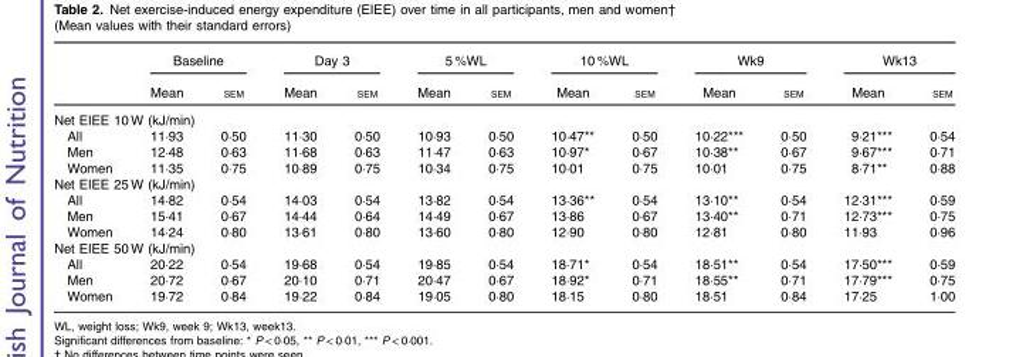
<table><thead><tr><td rowspan="2"></td><td colspan="2">Baseline</td><td colspan="2">Day 3</td><td colspan="2">5 %WL</td><td colspan="2">10 %WL</td><td colspan="2">Wk9</td><td colspan="2">Wk13</td></tr><tr><td>Mean</td><td>SEM</td><td>Mean</td><td>SEM</td><td>Mean</td><td>SEM</td><td>Mean</td><td>SEM</td><td>Mean</td><td>SEM</td><td>Mean</td><td>SEM</td></tr></thead><tbody><tr><td colspan="13">Net EIEE 10 W (kJ/min)</td></tr><tr><td>All</td><td>11·93</td><td>0·50</td><td>11·30</td><td>0·50</td><td>10·93</td><td>0·50</td><td>10·47**</td><td>0·50</td><td>10·22***</td><td>0·50</td><td>9·21***</td><td>0·54</td></tr><tr><td>Men</td><td>12·48</td><td>0·63</td><td>11·68</td><td>0·63</td><td>11·47</td><td>0·63</td><td>10·97*</td><td>0·67</td><td>10·38**</td><td>0·67</td><td>9·67***</td><td>0·71</td></tr><tr><td>Women</td><td>11·35</td><td>0·75</td><td>10·89</td><td>0·75</td><td>10·34</td><td>0·75</td><td>10·01</td><td>0·75</td><td>10·01</td><td>0·75</td><td>8·71**</td><td>0·88</td></tr><tr><td colspan="13">Net EIEE 25 W (kJ/min)</td></tr><tr><td>All</td><td>14·82</td><td>0·54</td><td>14·03</td><td>0·54</td><td>13·82</td><td>0·54</td><td>13·36**</td><td>0·54</td><td>13·10**</td><td>0·54</td><td>12·31***</td><td>0·59</td></tr><tr><td>Men</td><td>15·41</td><td>0·67</td><td>14·44</td><td>0·64</td><td>14·49</td><td>0·67</td><td>13·86</td><td>0·67</td><td>13·40**</td><td>0·71</td><td>12·73***</td><td>0·75</td></tr><tr><td>Women</td><td>14·24</td><td>0·80</td><td>13·61</td><td>0·80</td><td>13·60</td><td>0·80</td><td>12·90</td><td>0·80</td><td>12·81</td><td>0·80</td><td>11·93</td><td>0·96</td></tr><tr><td colspan="13">Net EIEE 50 W (kJ/min)</td></tr><tr><td>All</td><td>20·22</td><td>0·54</td><td>19·68</td><td>0·54</td><td>19·85</td><td>0·54</td><td>18·71*</td><td>0·54</td><td>18·51**</td><td>0·54</td><td>17·50***</td><td>0·59</td></tr><tr><td>Men</td><td>20·72</td><td>0·67</td><td>20·10</td><td>0·71</td><td>20·47</td><td>0·67</td><td>18·92*</td><td>0·71</td><td>18·55**</td><td>0·71</td><td>17·79***</td><td>0·75</td></tr><tr><td>Women</td><td>19·72</td><td>0·84</td><td>19·22</td><td>0·84</td><td>19·05</td><td>0·80</td><td>18·15</td><td>0·80</td><td>18·51</td><td>0·84</td><td>17·25</td><td>1·00</td></tr></tbody></table>